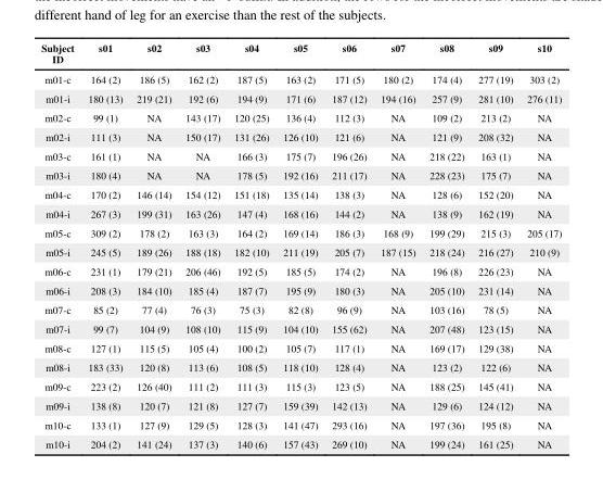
<table><thead><tr><td>Subject ID</td><td>s01</td><td>s02</td><td>s03</td><td>s04</td><td>s05</td><td>s06</td><td>s07</td><td>s08</td><td>s09</td><td>s10</td></tr></thead><tbody><tr><td>m01-c</td><td>164 (2)</td><td>186 (5)</td><td>162 (2)</td><td>187 (5)</td><td>163 (2)</td><td>171 (5)</td><td>180 (2)</td><td>174 (4)</td><td>277 (19)</td><td>303 (2)</td></tr><tr><td>m01-i</td><td>180 (13)</td><td>219 (21)</td><td>192 (6)</td><td>194 (9)</td><td>171 (6)</td><td>187 (12)</td><td>194 (16)</td><td>257 (9)</td><td>281 (10)</td><td>276 (11)</td></tr><tr><td>m02-c</td><td>99 (1)</td><td>NA</td><td>143 (17)</td><td>120 (25)</td><td>136 (4)</td><td>112 (3)</td><td>NA</td><td>109 (2)</td><td>213 (2)</td><td>NA</td></tr><tr><td>m02-i</td><td>111 (3)</td><td>NA</td><td>150 (17)</td><td>131 (26)</td><td>126 (10)</td><td>121 (6)</td><td>NA</td><td>121 (9)</td><td>208 (32)</td><td>NA</td></tr><tr><td>m03-c</td><td>161 (1)</td><td>NA</td><td>NA</td><td>166 (3)</td><td>175 (7)</td><td>196 (26)</td><td>NA</td><td>218 (22)</td><td>163 (1)</td><td>NA</td></tr><tr><td>m03-i</td><td>180 (4)</td><td>NA</td><td>NA</td><td>178 (5)</td><td>192 (16)</td><td>211 (17)</td><td>NA</td><td>228 (23)</td><td>175 (7)</td><td>NA</td></tr><tr><td>m04-c</td><td>170 (2)</td><td>146 (14)</td><td>154 (12)</td><td>151 (18)</td><td>135 (14)</td><td>138 (3)</td><td>NA</td><td>128 (6)</td><td>152 (20)</td><td>NA</td></tr><tr><td>m04-i</td><td>267 (3)</td><td>199 (31)</td><td>163 (26)</td><td>147 (4)</td><td>168 (16)</td><td>144 (2)</td><td>NA</td><td>138 (9)</td><td>162 (19)</td><td>NA</td></tr><tr><td>m05-c</td><td>309 (2)</td><td>178 (2)</td><td>163 (3)</td><td>164 (2)</td><td>169 (14)</td><td>186 (3)</td><td>168 (9)</td><td>199 (29)</td><td>215 (3)</td><td>205 (17)</td></tr><tr><td>m05-i</td><td>245 (5)</td><td>189 (26)</td><td>188 (18)</td><td>182 (10)</td><td>211 (19)</td><td>205 (7)</td><td>187 (15)</td><td>218 (24)</td><td>216 (27)</td><td>210 (9)</td></tr><tr><td>m06-c</td><td>231 (1)</td><td>179 (21)</td><td>206 (46)</td><td>192 (5)</td><td>185 (5)</td><td>174 (2)</td><td>NA</td><td>196 (8)</td><td>226 (23)</td><td>NA</td></tr><tr><td>m06-i</td><td>208 (3)</td><td>184 (10)</td><td>185 (4)</td><td>187 (7)</td><td>195 (9)</td><td>180 (3)</td><td>NA</td><td>205 (10)</td><td>231 (14)</td><td>NA</td></tr><tr><td>m07-c</td><td>85 (2)</td><td>77 (4)</td><td>76 (3)</td><td>75 (3)</td><td>82 (8)</td><td>96 (9)</td><td>NA</td><td>103 (16)</td><td>78 (5)</td><td>NA</td></tr><tr><td>m07-i</td><td>99 (7)</td><td>104 (9)</td><td>108 (10)</td><td>115 (9)</td><td>104 (10)</td><td>155 (62)</td><td>NA</td><td>207 (48)</td><td>123 (15)</td><td>NA</td></tr><tr><td>m08-c</td><td>127 (1)</td><td>115 (5)</td><td>105 (4)</td><td>100 (2)</td><td>105 (7)</td><td>117 (1)</td><td>NA</td><td>169 (17)</td><td>129 (38)</td><td>NA</td></tr><tr><td>m08-i</td><td>183 (33)</td><td>120 (8)</td><td>113 (6)</td><td>108 (5)</td><td>118 (10)</td><td>128 (4)</td><td>NA</td><td>123 (2)</td><td>122 (6)</td><td>NA</td></tr><tr><td>m09-c</td><td>223 (2)</td><td>126 (40)</td><td>111 (2)</td><td>111 (3)</td><td>115 (3)</td><td>123 (5)</td><td>NA</td><td>188 (25)</td><td>145 (41)</td><td>NA</td></tr><tr><td>m09-i</td><td>138 (8)</td><td>120 (7)</td><td>121 (8)</td><td>127 (7)</td><td>159 (39)</td><td>142 (13)</td><td>NA</td><td>129 (6)</td><td>124 (12)</td><td>NA</td></tr><tr><td>m10-c</td><td>133 (1)</td><td>127 (9)</td><td>129 (5)</td><td>128 (3)</td><td>141 (47)</td><td>293 (16)</td><td>NA</td><td>197 (36)</td><td>195 (8)</td><td>NA</td></tr><tr><td>m10-i</td><td>204 (2)</td><td>141 (24)</td><td>137 (3)</td><td>140 (6)</td><td>157 (43)</td><td>269 (10)</td><td>NA</td><td>199 (24)</td><td>161 (25)</td><td>NA</td></tr></tbody></table>